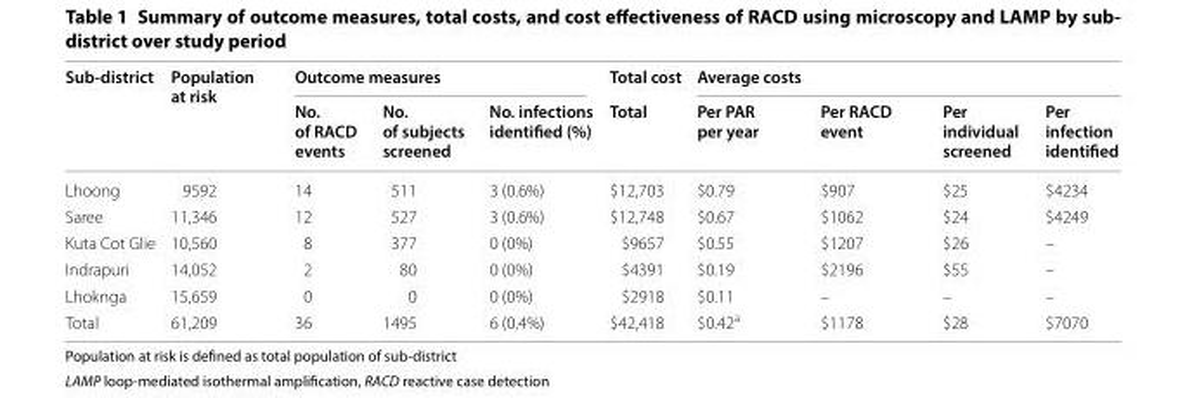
<table><thead><tr><td rowspan="2">Sub‑district</td><td rowspan="2">Population at risk</td><td colspan="3">Outcome measures</td><td rowspan="2">Total cost Total</td><td colspan="4">Average costs</td></tr><tr><td>No. of RACD events</td><td>No. of subjects screened</td><td>No. infections identified (%)</td><td>Per PAR per year</td><td>Per RACD event</td><td>Per individual screened</td><td>Per infection identified</td></tr></thead><tbody><tr><td>Lhoong</td><td>9592</td><td>14</td><td>511</td><td>3 (0.6%)</td><td>$12,703</td><td>$0.79</td><td>$907</td><td>$25</td><td>$4234</td></tr><tr><td>Saree</td><td>11,346</td><td>12</td><td>527</td><td>3 (0.6%)</td><td>$12,748</td><td>$0.67</td><td>$1062</td><td>$24</td><td>$4249</td></tr><tr><td>Kuta Cot Glie</td><td>10,560</td><td>8</td><td>377</td><td>0 (0%)</td><td>$9657</td><td>$0.55</td><td>$1207</td><td>$26</td><td>–</td></tr><tr><td>Indrapuri</td><td>14,052</td><td>2</td><td>80</td><td>0 (0%)</td><td>$4391</td><td>$0.19</td><td>$2196</td><td>$55</td><td>–</td></tr><tr><td>Lhoknga</td><td>15,659</td><td>0</td><td>0</td><td>0 (0%)</td><td>$2918</td><td>$0.11</td><td>–</td><td>–</td><td>–</td></tr><tr><td>Total</td><td>61,209</td><td>36</td><td>1495</td><td>6 (0.4%)</td><td>$42,418</td><td>$0.42<sup>a</sup></td><td>$1178</td><td>$28</td><td>$7070</td></tr></tbody></table>